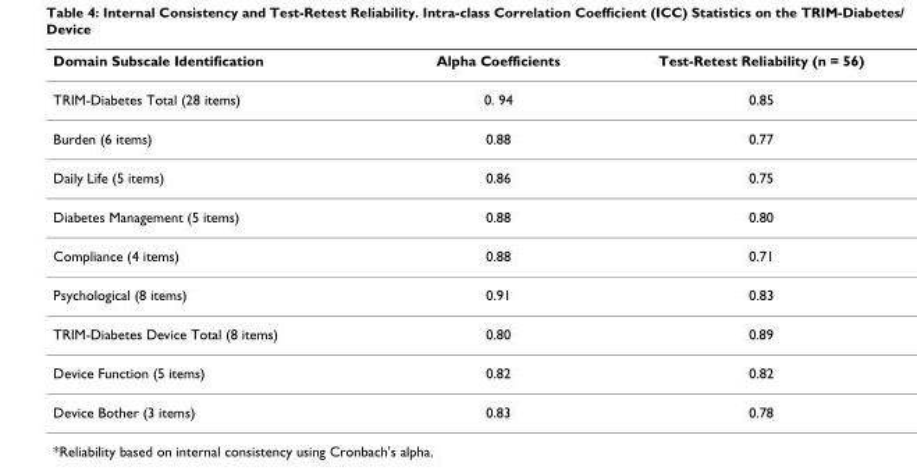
<table><thead><tr><td>Domain Subscale Identification</td><td>Alpha Coefficients</td><td>Test-Retest Reliability (n = 56)</td></tr></thead><tbody><tr><td>TRIM-Diabetes Total (28 items)</td><td>0. 94</td><td>0.85</td></tr><tr><td>Burden (6 items)</td><td>0.88</td><td>0.77</td></tr><tr><td>Daily Life (5 items)</td><td>0.86</td><td>0.75</td></tr><tr><td>Diabetes Management (5 items)</td><td>0.88</td><td>0.80</td></tr><tr><td>Compliance (4 items)</td><td>0.88</td><td>0.71</td></tr><tr><td>Psychological (8 items)</td><td>0.91</td><td>0.83</td></tr><tr><td>TRIM-Diabetes Device Total (8 items)</td><td>0.80</td><td>0.89</td></tr><tr><td>Device Function (5 items)</td><td>0.82</td><td>0.82</td></tr><tr><td>Device Bother (3 items)</td><td>0.83</td><td>0.78</td></tr></tbody></table>